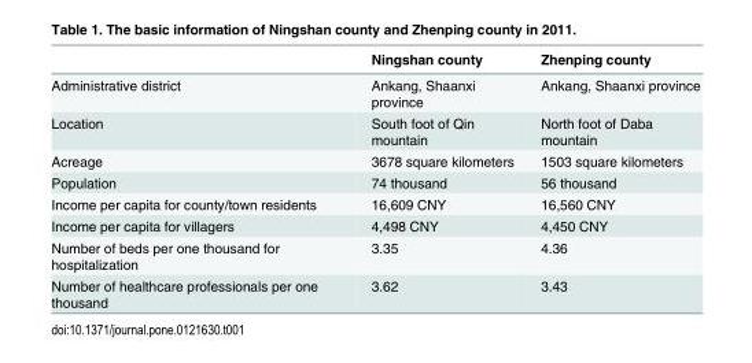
<table><thead><tr><td></td><td>Ningshan county</td><td>Zhenping county</td></tr></thead><tbody><tr><td>Administrative district</td><td>Ankang, Shaanxi province</td><td>Ankang, Shaanxi province</td></tr><tr><td>Location</td><td>South foot of Qin mountain</td><td>North foot of Daba mountain</td></tr><tr><td>Acreage</td><td>3678 square kilometers</td><td>1503 square kilometers</td></tr><tr><td>Population</td><td>74 thousand</td><td>56 thousand</td></tr><tr><td>Income per capita for county/town residents</td><td>16,609 CNY</td><td>16,560 CNY</td></tr><tr><td>Income per capita for villagers</td><td>4,498 CNY</td><td>4,450 CNY</td></tr><tr><td>Number of beds per one thousand for hospitalization</td><td>3.35</td><td>4.36</td></tr><tr><td>Number of healthcare professionals per one thousand</td><td>3.62</td><td>3.43</td></tr></tbody></table>